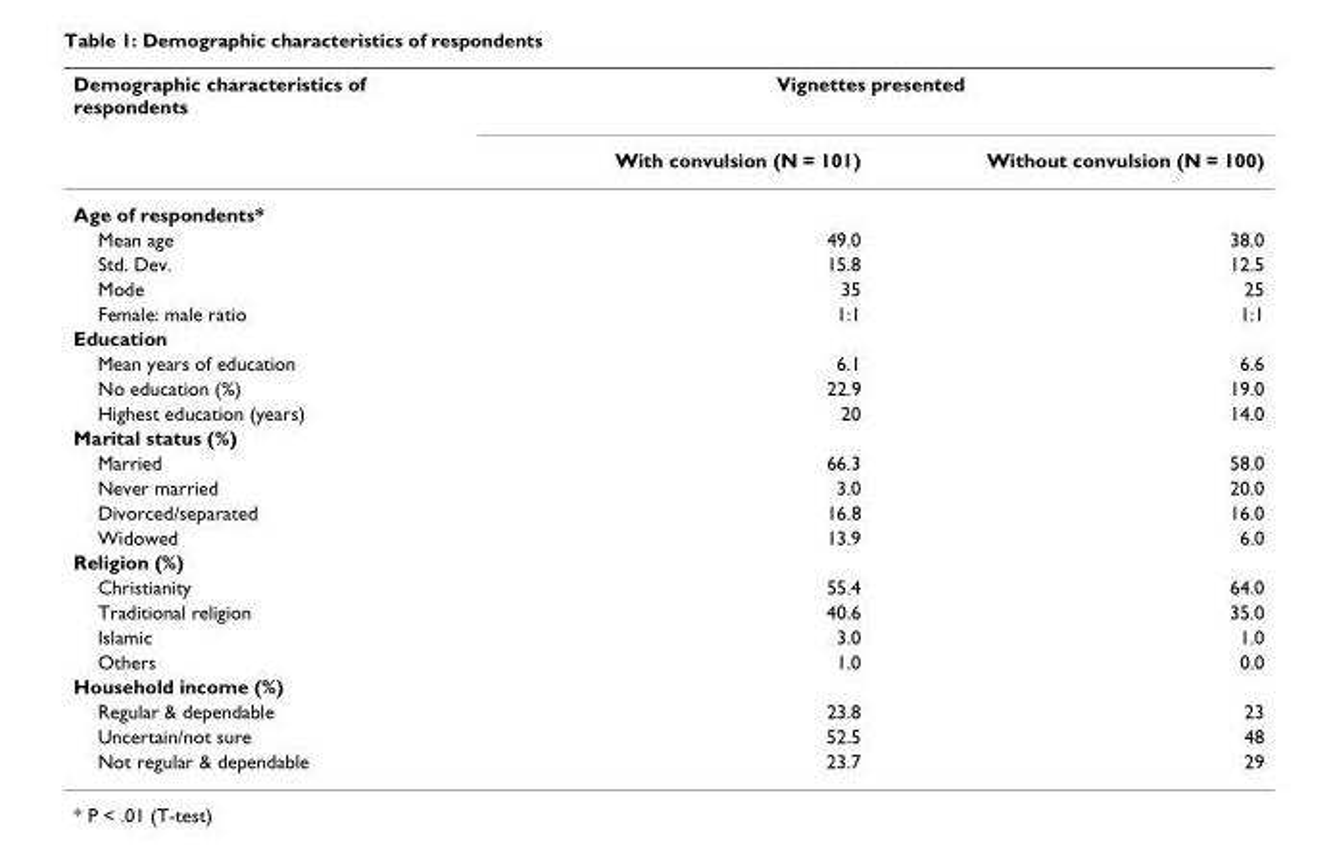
<table><thead><tr><td rowspan="2">Demographic characteristics of respondents</td><td colspan="2">Vignettes presented</td></tr><tr><td>With convulsion (N = 101)</td><td>Without convulsion (N = 100)</td></tr></thead><tbody><tr><td colspan="3">Age of respondents*</td></tr><tr><td>Mean age</td><td>49.0</td><td>38.0</td></tr><tr><td>Std. Dev.</td><td>15.8</td><td>12.5</td></tr><tr><td>Mode</td><td>35</td><td>25</td></tr><tr><td>Female: male ratio</td><td>1:1</td><td>1:1</td></tr><tr><td colspan="3">Education</td></tr><tr><td>Mean years of education</td><td>6.1</td><td>6.6</td></tr><tr><td>No education (%)</td><td>22.9</td><td>19.0</td></tr><tr><td>Highest education (years)</td><td>20</td><td>14.0</td></tr><tr><td colspan="3">Marital status (%)</td></tr><tr><td>Married</td><td>66.3</td><td>58.0</td></tr><tr><td>Never married</td><td>3.0</td><td>20.0</td></tr><tr><td>Divorced/separated</td><td>16.8</td><td>16.0</td></tr><tr><td>Widowed</td><td>13.9</td><td>6.0</td></tr><tr><td colspan="3">Religion (%)</td></tr><tr><td>Christianity</td><td>55.4</td><td>64.0</td></tr><tr><td>Traditional religion</td><td>40.6</td><td>35.0</td></tr><tr><td>Islamic</td><td>3.0</td><td>1.0</td></tr><tr><td>Others</td><td>1.0</td><td>0.0</td></tr><tr><td colspan="3">Household income (%)</td></tr><tr><td>Regular &amp; dependable</td><td>23.8</td><td>23</td></tr><tr><td>Uncertain/not sure</td><td>52.5</td><td>48</td></tr><tr><td>Not regular &amp; dependable</td><td>23.7</td><td>29</td></tr></tbody></table>